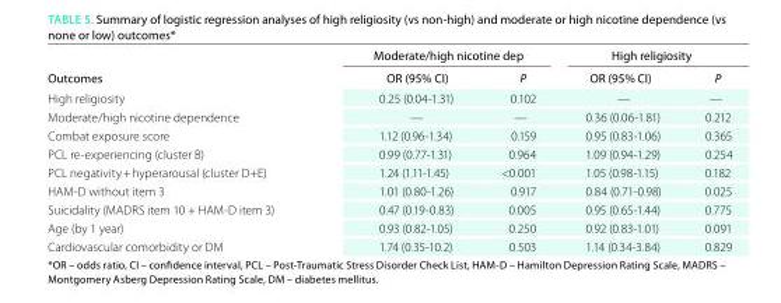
<table><thead><tr><td rowspan="2">Outcomes</td><td colspan="2">Moderate/high nicotine dep</td><td colspan="2">High religiosity</td></tr><tr><td>OR (95% CI)</td><td>P</td><td>OR (95% CI)</td><td>P</td></tr></thead><tbody><tr><td>High religiosity</td><td>0.25 (0.04-1.31)</td><td>0.102</td><td>—</td><td>—</td></tr><tr><td>Moderate/high nicotine dependence</td><td>—</td><td>—</td><td>0.36 (0.06-1.81)</td><td>0.212</td></tr><tr><td>Combat exposure score</td><td>1.12 (0.96-1.34)</td><td>0.159</td><td>0.95 (0.83-1.06)</td><td>0.365</td></tr><tr><td>PCL re-experiencing (cluster B)</td><td>0.99 (0.77-1.31)</td><td>0.964</td><td>1.09 (0.94-1.29)</td><td>0.254</td></tr><tr><td>PCL negativity + hyperarousal (cluster D+E)</td><td>1.24 (1.11-1.45)</td><td>&lt;0.001</td><td>1.05 (0.98-1.15)</td><td>0.182</td></tr><tr><td>HAM-D without item 3</td><td>1.01 (0.80-1.26)</td><td>0.917</td><td>0.84 (0.71-0.98)</td><td>0.025</td></tr><tr><td>Suicidality (MADRS item 10 + HAM-D item 3)</td><td>0.47 (0.19-0.83)</td><td>0.005</td><td>0.95 (0.65-1.44)</td><td>0.775</td></tr><tr><td>Age (by 1 year)</td><td>0.93 (0.82-1.05)</td><td>0.250</td><td>0.92 (0.83-1.01)</td><td>0.091</td></tr><tr><td>Cardiovascular comorbidity or DM</td><td>1.74 (0.35-10.2)</td><td>0.503</td><td>1.14 (0.34-3.84)</td><td>0.829</td></tr></tbody></table>